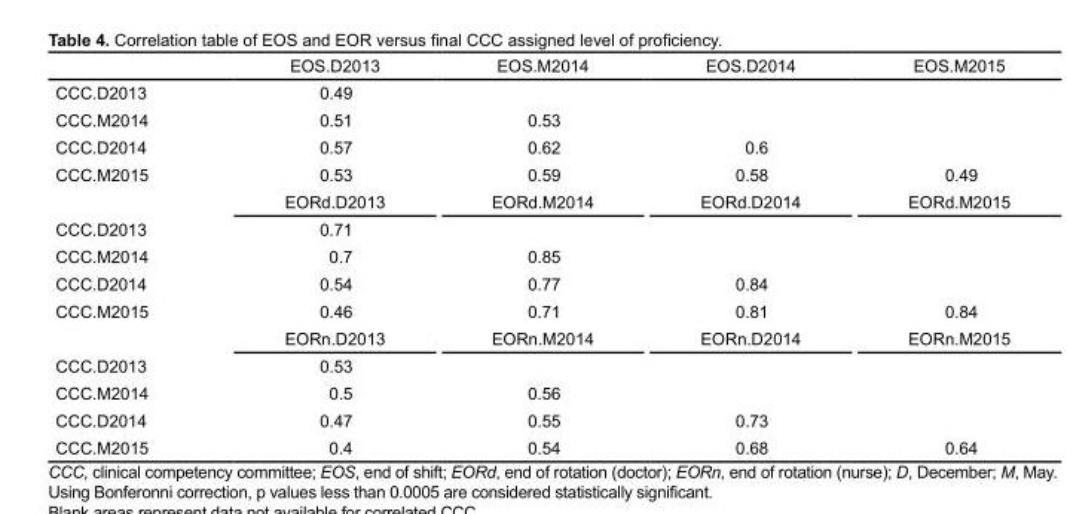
<table><thead><tr><td></td><td>EOS.D2013</td><td>EOS.M2014</td><td>EOS.D2014</td><td>EOS.M2015</td></tr></thead><tbody><tr><td>CCC.D2013</td><td>0.49</td><td></td><td></td><td></td></tr><tr><td>CCC.M2014</td><td>0.51</td><td>0.53</td><td></td><td></td></tr><tr><td>CCC.D2014</td><td>0.57</td><td>0.62</td><td>0.6</td><td></td></tr><tr><td rowspan="2">CCC.M2015</td><td>0.53</td><td>0.59</td><td>0.58</td><td>0.49</td></tr><tr><td>EORd.D2013</td><td>EORd.M2014</td><td>EORd.D2014</td><td>EORd.M2015</td></tr><tr><td>CCC.D2013</td><td>0.71</td><td></td><td></td><td></td></tr><tr><td>CCC.M2014</td><td>0.7</td><td>0.85</td><td></td><td></td></tr><tr><td>CCC.D2014</td><td>0.54</td><td>0.77</td><td>0.84</td><td></td></tr><tr><td rowspan="2">CCC.M2015</td><td>0.46</td><td>0.71</td><td>0.81</td><td>0.84</td></tr><tr><td>EORn.D2013</td><td>EORn.M2014</td><td>EORn.D2014</td><td>EORn.M2015</td></tr><tr><td>CCC.D2013</td><td>0.53</td><td></td><td></td><td></td></tr><tr><td>CCC.M2014</td><td>0.5</td><td>0.56</td><td></td><td></td></tr><tr><td>CCC.D2014</td><td>0.47</td><td>0.55</td><td>0.73</td><td></td></tr><tr><td>CCC.M2015</td><td>0.4</td><td>0.54</td><td>0.68</td><td>0.64</td></tr></tbody></table>